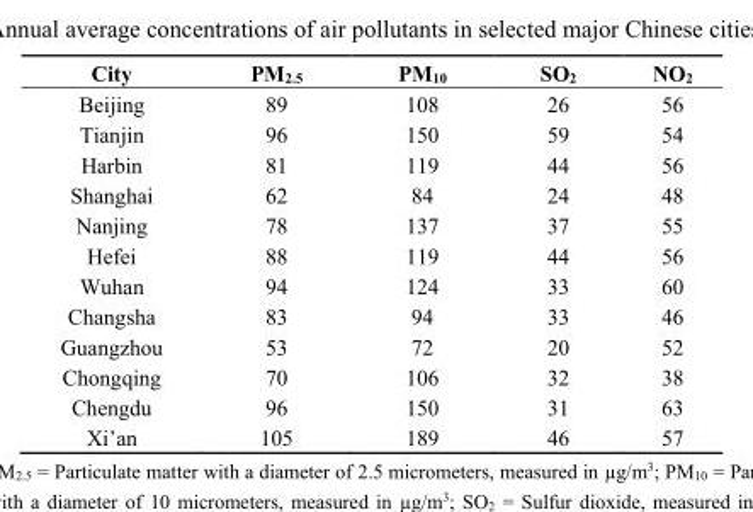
<table><thead><tr><td>City</td><td>PM<sub>2.5</sub></td><td>PM<sub>10</sub></td><td>SO<sub>2</sub></td><td>NO<sub>2</sub></td></tr></thead><tbody><tr><td>Beijing</td><td>89</td><td>108</td><td>26</td><td>56</td></tr><tr><td>Tianjin</td><td>96</td><td>150</td><td>59</td><td>54</td></tr><tr><td>Harbin</td><td>81</td><td>119</td><td>44</td><td>56</td></tr><tr><td>Shanghai</td><td>62</td><td>84</td><td>24</td><td>48</td></tr><tr><td>Nanjing</td><td>78</td><td>137</td><td>37</td><td>55</td></tr><tr><td>Hefei</td><td>88</td><td>119</td><td>44</td><td>56</td></tr><tr><td>Wuhan</td><td>94</td><td>124</td><td>33</td><td>60</td></tr><tr><td>Changsha</td><td>83</td><td>94</td><td>33</td><td>46</td></tr><tr><td>Guangzhou</td><td>53</td><td>72</td><td>20</td><td>52</td></tr><tr><td>Chongqing</td><td>70</td><td>106</td><td>32</td><td>38</td></tr><tr><td>Chengdu</td><td>96</td><td>150</td><td>31</td><td>63</td></tr><tr><td>Xi’an</td><td>105</td><td>189</td><td>46</td><td>57</td></tr></tbody></table>